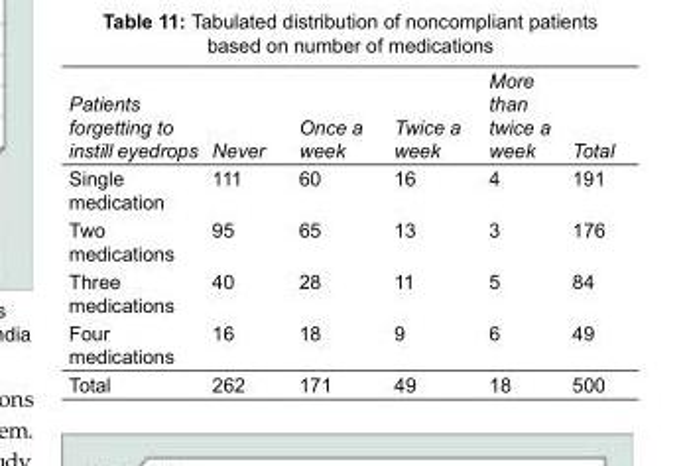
<table><tbody><tr><td>Patients forgetting to instill eyedrops</td><td>Never</td><td>Once a week</td><td>Twice a week</td><td>More than twice a week</td><td>Total</td></tr><tr><td>Single medication</td><td>111</td><td>60</td><td>16</td><td>4</td><td>191</td></tr><tr><td>Two medications</td><td>95</td><td>65</td><td>13</td><td>3</td><td>176</td></tr><tr><td>Three medications</td><td>40</td><td>28</td><td>11</td><td>5</td><td>84</td></tr><tr><td>Four medications</td><td>16</td><td>18</td><td>9</td><td>6</td><td>49</td></tr><tr><td>Total</td><td>262</td><td>171</td><td>49</td><td>18</td><td>500</td></tr></tbody></table>